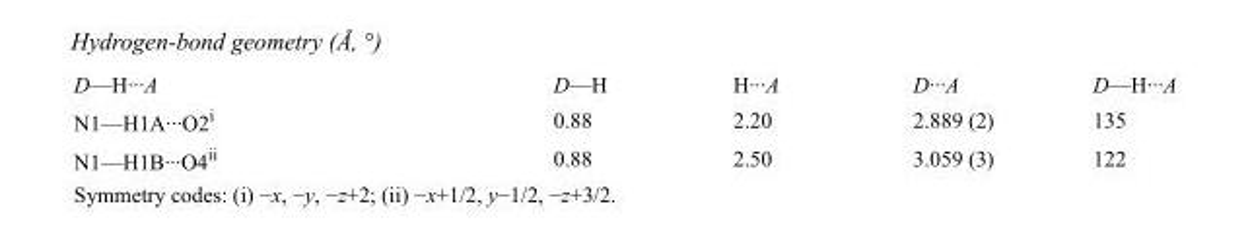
<table><tbody><tr><td>D—H···A</td><td>D—H</td><td>H···A</td><td>D···A</td><td>D—H···A</td></tr><tr><td>N1—H1A···O2<sup>i</sup></td><td>0.88</td><td>2.20</td><td>2.889 (2)</td><td>135</td></tr><tr><td>N1—H1B···O4<sup>ii</sup></td><td>0.88</td><td>2.50</td><td>3.059 (3)</td><td>122</td></tr></tbody></table>